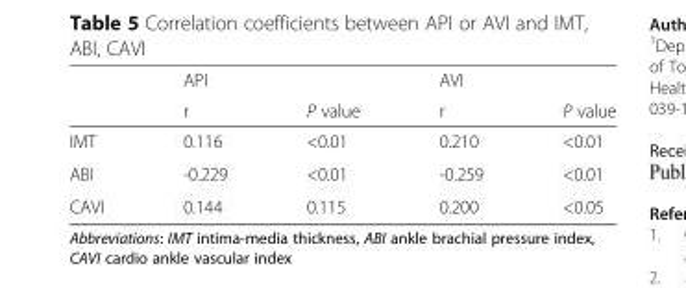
<table><thead><tr><td rowspan="2"></td><td rowspan="2">API r</td><td rowspan="2">P value</td><td rowspan="2">AVI r</td><td rowspan="2">P value</td></tr><tr></tr></thead><tbody><tr><td>IMT</td><td>0.116</td><td>&lt;0.01</td><td>0.210</td><td>&lt;0.01</td></tr><tr><td>ABI</td><td>-0.229</td><td>&lt;0.01</td><td>-0.259</td><td>&lt;0.01</td></tr><tr><td>CAVI</td><td>0.144</td><td>0.115</td><td>0.200</td><td>&lt;0.05</td></tr></tbody></table>